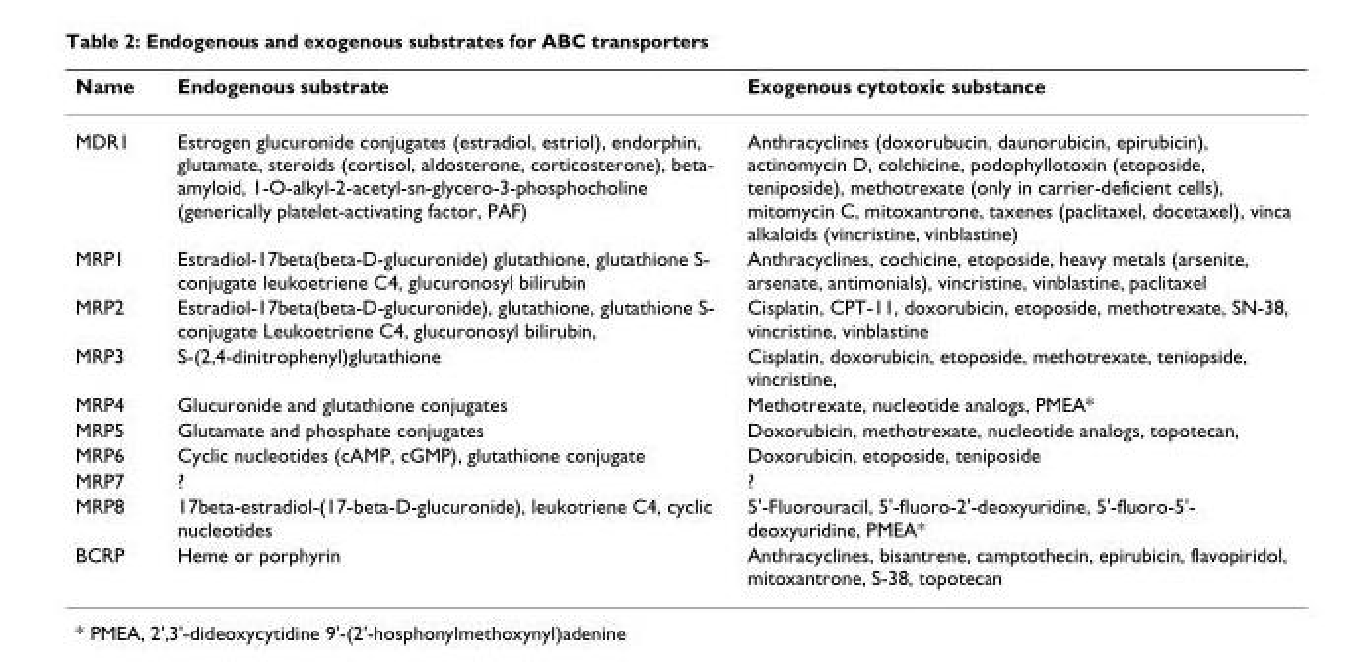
<table><thead><tr><td>Name</td><td>Endogenous substrate</td><td>Exogenous cytotoxic substance</td></tr></thead><tbody><tr><td>MDR1</td><td>Estrogen glucuronide conjugates (estradiol, estriol), endorphin, glutamate, steroids (cortisol, aldosterone, corticosterone), beta- amyloid, 1-O-alkyl-2-acetyl-sn-glycero-3-phosphocholine (generically platelet-activating factor, PAF)</td><td>Anthracyclines (doxorubucin, daunorubicin, epirubicin), actinomycin D, colchicine, podophyllotoxin (etoposide, teniposide), methotrexate (only in carrier-deficient cells), mitomycin C, mitoxantrone, taxenes (paclitaxel, docetaxel), vinca alkaloids (vincristine, vinblastine)</td></tr><tr><td>MRP1</td><td>Estradiol-17beta(beta-D-glucuronide) glutathione, glutathione S- conjugate leukoetriene C4, glucuronosyl bilirubin</td><td>Anthracyclines, cochicine, etoposide, heavy metals (arsenite, arsenate, antimonials), vincristine, vinblastine, paclitaxel</td></tr><tr><td>MRP2</td><td>Estradiol-17beta(beta-D-glucuronide), glutathione, glutathione S- conjugate Leukoetriene C4, glucuronosyl bilirubin,</td><td>Cisplatin, CPT-11, doxorubicin, etoposide, methotrexate, SN-38, vincristine, vinblastine</td></tr><tr><td>MRP3</td><td>S-(2,4-dinitrophenyl)glutathione</td><td>Cisplatin, doxorubicin, etoposide, methotrexate, teniopside, vincristine,</td></tr><tr><td>MRP4</td><td>Glucuronide and glutathione conjugates</td><td>Methotrexate, nucleotide analogs, PMEA*</td></tr><tr><td>MRP5</td><td>Glutamate and phosphate conjugates</td><td>Doxorubicin, methotrexate, nucleotide analogs, topotecan,</td></tr><tr><td>MRP6</td><td>Cyclic nucleotides (cAMP, cGMP), glutathione conjugate</td><td>Doxorubicin, etoposide, teniposide</td></tr><tr><td>MRP7</td><td>?</td><td>?</td></tr><tr><td>MRP8</td><td>17beta-estradiol-(17-beta-D-glucuronide), leukotriene C4, cyclic nucleotides</td><td>5&#x27;-Fluorouracil, 5&#x27;-fluoro-2&#x27;-deoxyuridine, 5&#x27;-fluoro-5&#x27;- deoxyuridine, PMEA*</td></tr><tr><td>BCRP</td><td>Heme or porphyrin</td><td>Anthracyclines, bisantrene, camptothecin, epirubicin, flavopiridol, mitoxantrone, S-38, topotecan</td></tr></tbody></table>